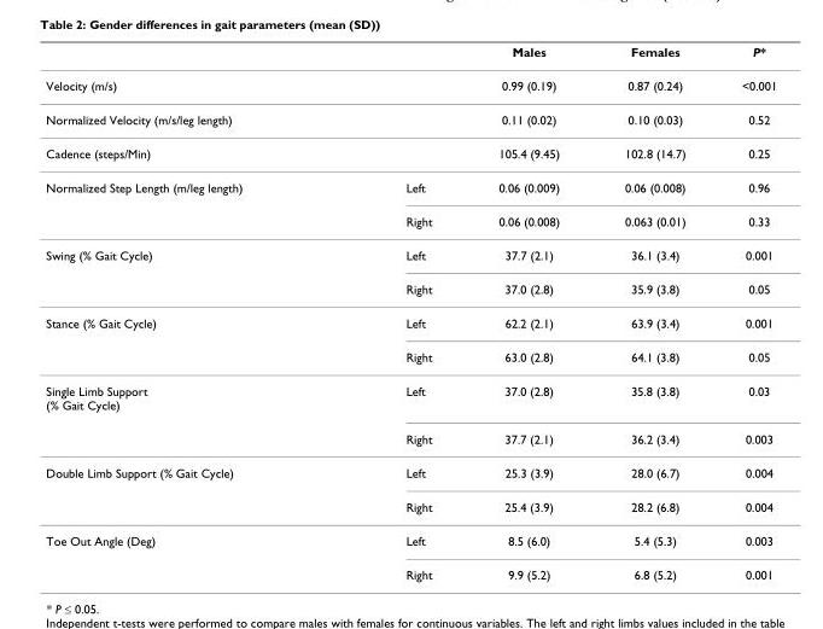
<table><thead><tr><td></td><td></td><td>Males</td><td>Females</td><td>P*</td></tr></thead><tbody><tr><td>Velocity (m/s)</td><td></td><td>0.99 (0.19)</td><td>0.87 (0.24)</td><td>&lt;0.001</td></tr><tr><td>Normalized Velocity (m/s/leg length)</td><td></td><td>0.11 (0.02)</td><td>0.10 (0.03)</td><td>0.52</td></tr><tr><td>Cadence (steps/Min)</td><td></td><td>105.4 (9.45)</td><td>102.8 (14.7)</td><td>0.25</td></tr><tr><td rowspan="2">Normalized Step Length (m/leg length)</td><td>Left</td><td>0.06 (0.009)</td><td>0.06 (0.008)</td><td>0.96</td></tr><tr><td>Right</td><td>0.06 (0.008)</td><td>0.063 (0.01)</td><td>0.33</td></tr><tr><td rowspan="2">Swing (% Gait Cycle)</td><td>Left</td><td>37.7 (2.1)</td><td>36.1 (3.4)</td><td>0.001</td></tr><tr><td>Right</td><td>37.0 (2.8)</td><td>35.9 (3.8)</td><td>0.05</td></tr><tr><td rowspan="2">Stance (% Gait Cycle)</td><td>Left</td><td>62.2 (2.1)</td><td>63.9 (3.4)</td><td>0.001</td></tr><tr><td>Right</td><td>63.0 (2.8)</td><td>64.1 (3.8)</td><td>0.05</td></tr><tr><td rowspan="2">Single Limb Support (% Gait Cycle)</td><td>Left</td><td>37.0 (2.8)</td><td>35.8 (3.8)</td><td>0.03</td></tr><tr><td>Right</td><td>37.7 (2.1)</td><td>36.2 (3.4)</td><td>0.003</td></tr><tr><td rowspan="2">Double Limb Support (% Gait Cycle)</td><td>Left</td><td>25.3 (3.9)</td><td>28.0 (6.7)</td><td>0.004</td></tr><tr><td>Right</td><td>25.4 (3.9)</td><td>28.2 (6.8)</td><td>0.004</td></tr><tr><td rowspan="2">Toe Out Angle (Deg)</td><td>Left</td><td>8.5 (6.0)</td><td>5.4 (5.3)</td><td>0.003</td></tr><tr><td>Right</td><td>9.9 (5.2)</td><td>6.8 (5.2)</td><td>0.001</td></tr></tbody></table>